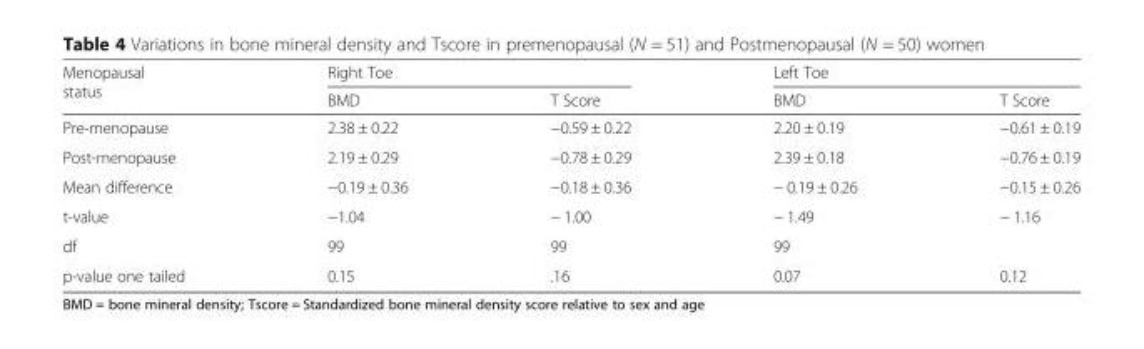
<table><thead><tr><td rowspan="2">Menopausal status</td><td colspan="2">Right Toe</td><td colspan="2">Left Toe</td></tr><tr><td>BMD</td><td>T Score</td><td>BMD</td><td>T Score</td></tr></thead><tbody><tr><td>Pre-menopause</td><td>2.38 ± 0.22</td><td>−0.59 ± 0.22</td><td>2.20 ± 0.19</td><td>−0.61 ± 0.19</td></tr><tr><td>Post-menopause</td><td>2.19 ± 0.29</td><td>−0.78 ± 0.29</td><td>2.39 ± 0.18</td><td>−0.76 ± 0.19</td></tr><tr><td>Mean difference</td><td>−0.19 ± 0.36</td><td>−0.18 ± 0.36</td><td>− 0.19 ± 0.26</td><td>−0.15 ± 0.26</td></tr><tr><td>t-value</td><td>−1.04</td><td>− 1.00</td><td>− 1.49</td><td>− 1.16</td></tr><tr><td>df</td><td>99</td><td>99</td><td>99</td><td></td></tr><tr><td>p-value one tailed</td><td>0.15</td><td>.16</td><td>0.07</td><td>0.12</td></tr></tbody></table>